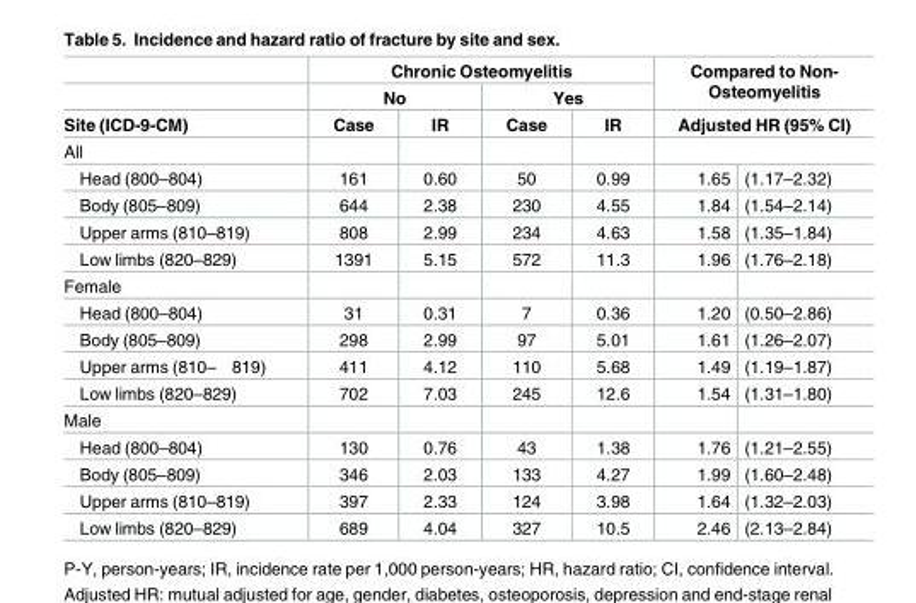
<table><thead><tr><td rowspan="5">Site (ICD-9-CM) All Head (800–804)</td><td colspan="4">Chronic Osteomyelitis</td><td rowspan="4" colspan="2">Compared to Non- Osteomyelitis Adjusted HR (95% CI)</td></tr><tr><td colspan="2">No</td><td colspan="2">Yes</td></tr><tr><td rowspan="3">Case 161</td><td rowspan="3">IR 0.60</td><td rowspan="3">Case 50</td><td rowspan="3">IR 0.99</td></tr><tr></tr><tr><td>1.65</td><td>(1.17–2.32)</td></tr></thead><tbody><tr><td>Body (805–809)</td><td>644</td><td>2.38</td><td>230</td><td>4.55</td><td>1.84</td><td>(1.54–2.14)</td></tr><tr><td>Upper arms (810–819)</td><td>808</td><td>2.99</td><td>234</td><td>4.63</td><td>1.58</td><td>(1.35–1.84)</td></tr><tr><td>Low limbs (820–829)</td><td>1391</td><td>5.15</td><td>572</td><td>11.3</td><td>1.96</td><td>(1.76–2.18)</td></tr><tr><td colspan="7">Female</td></tr><tr><td>Head (800–804)</td><td>31</td><td>0.31</td><td>7</td><td>0.36</td><td>1.20</td><td>(0.50–2.86)</td></tr><tr><td>Body (805–809)</td><td>298</td><td>2.99</td><td>97</td><td>5.01</td><td>1.61</td><td>(1.26–2.07)</td></tr><tr><td>Upper arms (810– 819)</td><td>411</td><td>4.12</td><td>110</td><td>5.68</td><td>1.49</td><td>(1.19–1.87)</td></tr><tr><td>Low limbs (820–829)</td><td>702</td><td>7.03</td><td>245</td><td>12.6</td><td>1.54</td><td>(1.31–1.80)</td></tr><tr><td colspan="7">Male</td></tr><tr><td>Head (800–804)</td><td>130</td><td>0.76</td><td>43</td><td>1.38</td><td>1.76</td><td>(1.21–2.55)</td></tr><tr><td>Body (805–809)</td><td>346</td><td>2.03</td><td>133</td><td>4.27</td><td>1.99</td><td>(1.60–2.48)</td></tr><tr><td>Upper arms (810–819)</td><td>397</td><td>2.33</td><td>124</td><td>3.98</td><td>1.64</td><td>(1.32–2.03)</td></tr><tr><td>Low limbs (820–829)</td><td>689</td><td>4.04</td><td>327</td><td>10.5</td><td>2.46</td><td>(2.13–2.84)</td></tr></tbody></table>